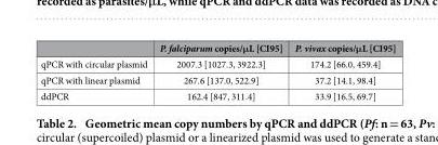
<table><thead><tr><td></td><td>P. falciparum copies/μL [CI95]</td><td>P. vivax copies/μL [CI95]</td></tr></thead><tbody><tr><td>qPCR with circular plasmid</td><td>2007.3 [1027.3, 3922.3]</td><td>174.2 [66.0, 459.4]</td></tr><tr><td>qPCR with linear plasmid</td><td>267.6 [137.0, 522.9]</td><td>37.2 [14.1, 98.4]</td></tr><tr><td>ddPCR</td><td>162.4 [847, 311.4]</td><td>33.9 [16.5, 69.7]</td></tr></tbody></table>